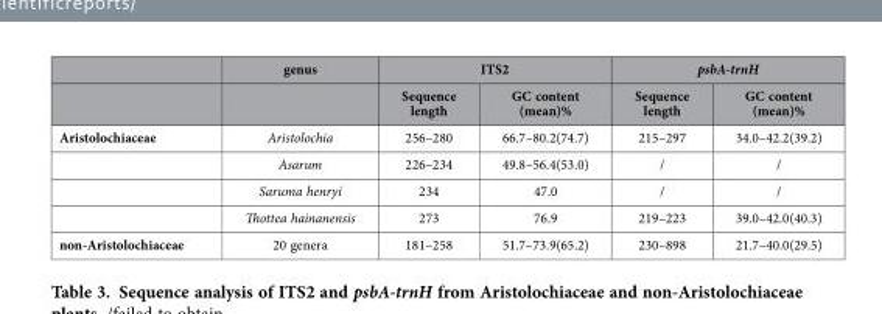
<table><thead><tr><td rowspan="2"></td><td rowspan="2">genus</td><td colspan="2">ITS2</td><td colspan="2">psbA-trnH</td></tr><tr><td>Sequence length</td><td>GC content (mean)%</td><td>Sequence length</td><td>GC content (mean)%</td></tr></thead><tbody><tr><td rowspan="4">Aristolochiaceae</td><td>Aristolochia</td><td>256–280</td><td>66.7–80.2(74.7)</td><td>215–297</td><td>34.0–42.2(39.2)</td></tr><tr><td>Asarum</td><td>226–234</td><td>49.8–56.4(53.0)</td><td>/</td><td>/</td></tr><tr><td>Saruma henryi</td><td>234</td><td>47.0</td><td>/</td><td>/</td></tr><tr><td>Thottea hainanensis</td><td>273</td><td>76.9</td><td>219–223</td><td>39.0–42.0(40.3)</td></tr><tr><td>non-Aristolochiaceae</td><td>20 genera</td><td>181–258</td><td>51.7–73.9(65.2)</td><td>230–898</td><td>21.7–40.0(29.5)</td></tr></tbody></table>